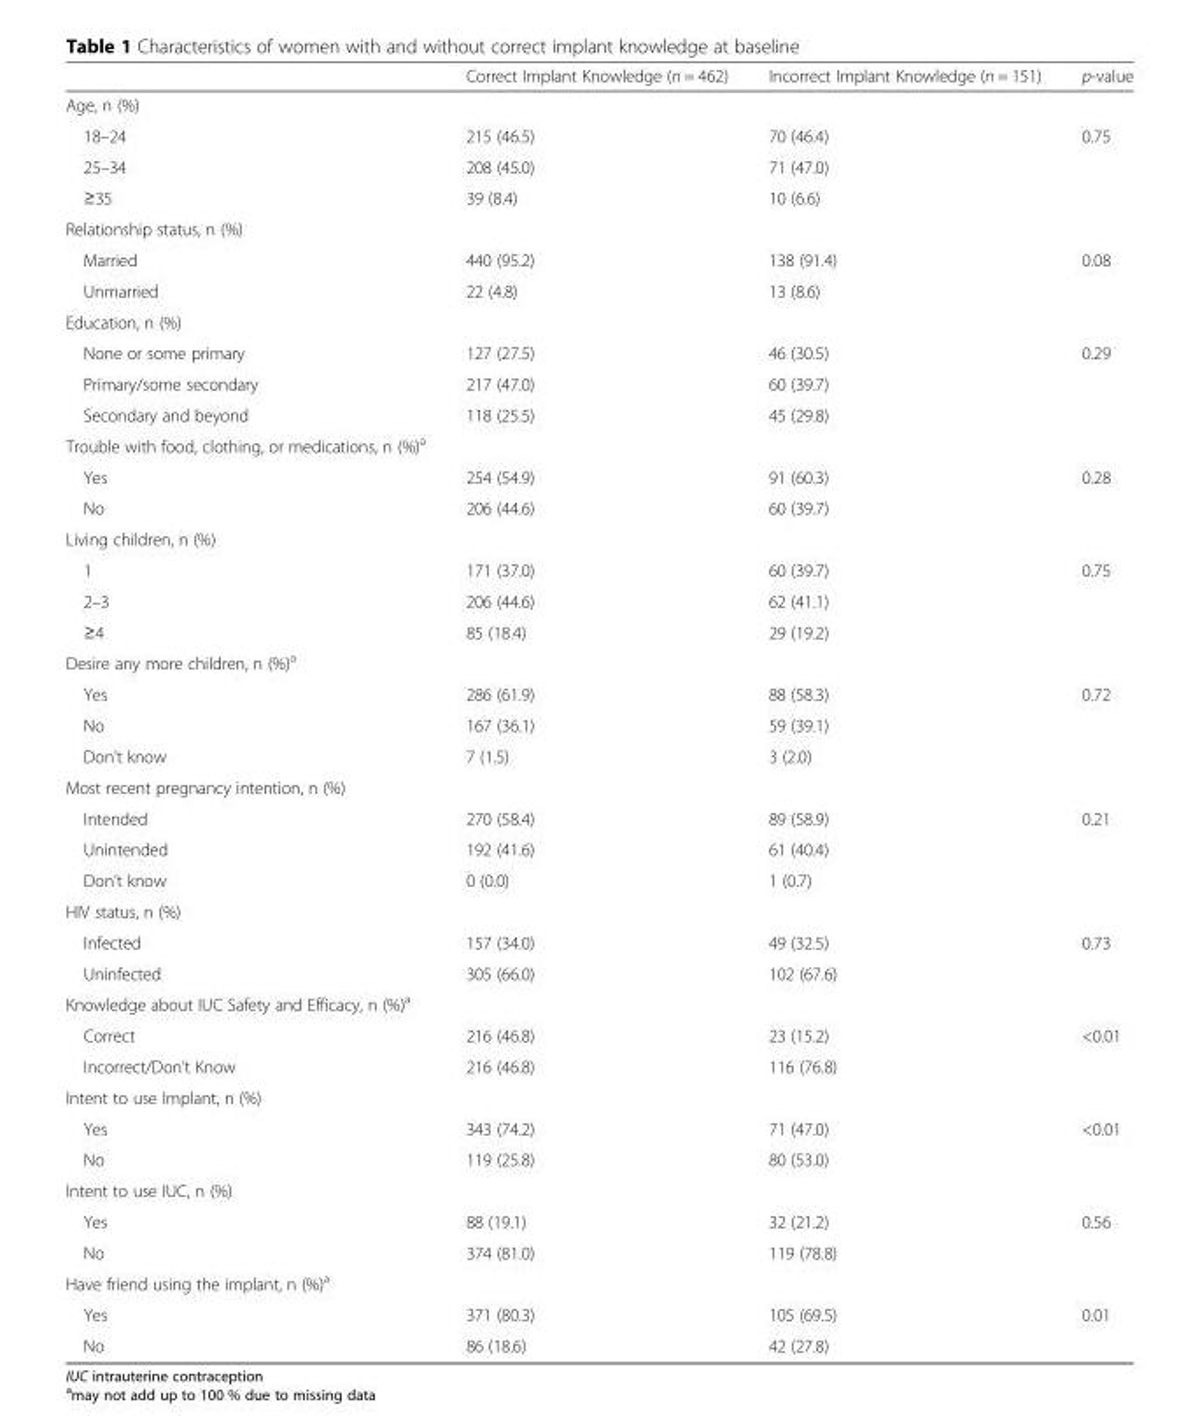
<table><thead><tr><td></td><td>Correct Implant Knowledge (n = 462)</td><td>Incorrect Implant Knowledge (n = 151)</td><td>p-value</td></tr></thead><tbody><tr><td colspan="4">Age, n (%)</td></tr><tr><td>18–24</td><td>215 (46.5)</td><td>70 (46.4)</td><td>0.75</td></tr><tr><td>25–34</td><td>208 (45.0)</td><td>71 (47.0)</td><td></td></tr><tr><td>≥35</td><td>39 (8.4)</td><td>10 (6.6)</td><td></td></tr><tr><td colspan="4">Relationship status, n (%)</td></tr><tr><td>Married</td><td>440 (95.2)</td><td>138 (91.4)</td><td>0.08</td></tr><tr><td>Unmarried</td><td>22 (4.8)</td><td>13 (8.6)</td><td></td></tr><tr><td colspan="4">Education, n (%)</td></tr><tr><td>None or some primary</td><td>127 (27.5)</td><td>46 (30.5)</td><td>0.29</td></tr><tr><td>Primary/some secondary</td><td>217 (47.0)</td><td>60 (39.7)</td><td></td></tr><tr><td>Secondary and beyond</td><td>118 (25.5)</td><td>45 (29.8)</td><td></td></tr><tr><td colspan="4">Trouble with food, clothing, or medications, n (%)<sup>a</sup></td></tr><tr><td>Yes</td><td>254 (54.9)</td><td>91 (60.3)</td><td>0.28</td></tr><tr><td>No</td><td>206 (44.6)</td><td>60 (39.7)</td><td></td></tr><tr><td colspan="4">Living children, n (%)</td></tr><tr><td>1</td><td>171 (37.0)</td><td>60 (39.7)</td><td>0.75</td></tr><tr><td>2–3</td><td>206 (44.6)</td><td>62 (41.1)</td><td></td></tr><tr><td>≥4</td><td>85 (18.4)</td><td>29 (19.2)</td><td></td></tr><tr><td colspan="4">Desire any more children, n (%)<sup>a</sup></td></tr><tr><td>Yes</td><td>286 (61.9)</td><td>88 (58.3)</td><td>0.72</td></tr><tr><td>No</td><td>167 (36.1)</td><td>59 (39.1)</td><td></td></tr><tr><td>Don’t know</td><td>7 (1.5)</td><td>3 (2.0)</td><td></td></tr><tr><td colspan="4">Most recent pregnancy intention, n (%)</td></tr><tr><td>Intended</td><td>270 (58.4)</td><td>89 (58.9)</td><td>0.21</td></tr><tr><td>Unintended</td><td>192 (41.6)</td><td>61 (40.4)</td><td></td></tr><tr><td>Don’t know</td><td>0 (0.0)</td><td>1 (0.7)</td><td></td></tr><tr><td colspan="4">HIV status, n (%)</td></tr><tr><td>Infected</td><td>157 (34.0)</td><td>49 (32.5)</td><td>0.73</td></tr><tr><td>Uninfected</td><td>305 (66.0)</td><td>102 (67.6)</td><td></td></tr><tr><td colspan="4">Knowledge about IUC Safety and Efficacy, n (%)<sup>a</sup></td></tr><tr><td>Correct</td><td>216 (46.8)</td><td>23 (15.2)</td><td>&lt;0.01</td></tr><tr><td>Incorrect/Don’t Know</td><td>216 (46.8)</td><td>116 (76.8)</td><td></td></tr><tr><td colspan="4">Intent to use Implant, n (%)</td></tr><tr><td>Yes</td><td>343 (74.2)</td><td>71 (47.0)</td><td>&lt;0.01</td></tr><tr><td>No</td><td>119 (25.8)</td><td>80 (53.0)</td><td></td></tr><tr><td colspan="4">Intent to use IUC, n (%)</td></tr><tr><td>Yes</td><td>88 (19.1)</td><td>32 (21.2)</td><td>0.56</td></tr><tr><td>No</td><td>374 (81.0)</td><td>119 (78.8)</td><td></td></tr><tr><td colspan="4">Have friend using the implant, n (%)<sup>a</sup></td></tr><tr><td>Yes</td><td>371 (80.3)</td><td>105 (69.5)</td><td>0.01</td></tr><tr><td>No</td><td>86 (18.6)</td><td>42 (27.8)</td><td></td></tr></tbody></table>